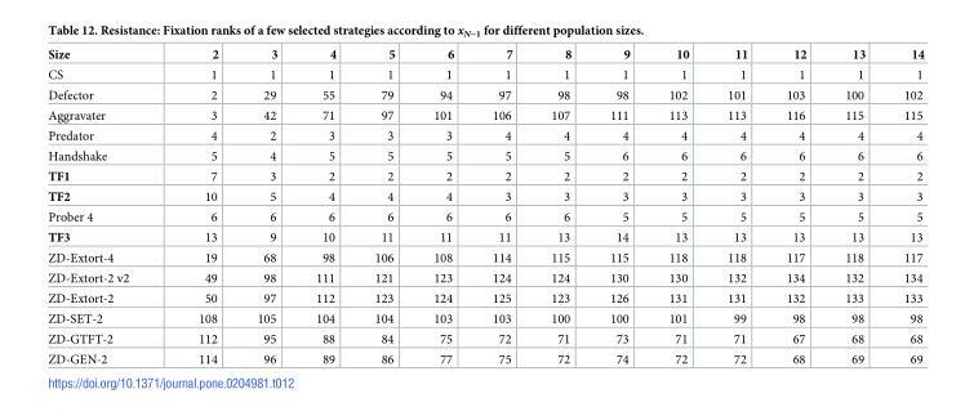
<table><thead><tr><td>Size</td><td>2</td><td>3</td><td>4</td><td>5</td><td>6</td><td>7</td><td>8</td><td>9</td><td>10</td><td>11</td><td>12</td><td>13</td><td>14</td></tr></thead><tbody><tr><td>CS</td><td>1</td><td>1</td><td>1</td><td>1</td><td>1</td><td>1</td><td>1</td><td>1</td><td>1</td><td>1</td><td>1</td><td>1</td><td>1</td></tr><tr><td>Defector</td><td>2</td><td>29</td><td>55</td><td>79</td><td>94</td><td>97</td><td>98</td><td>98</td><td>102</td><td>101</td><td>103</td><td>100</td><td>102</td></tr><tr><td>Aggravater</td><td>3</td><td>42</td><td>71</td><td>97</td><td>101</td><td>106</td><td>107</td><td>111</td><td>113</td><td>113</td><td>116</td><td>115</td><td>115</td></tr><tr><td>Predator</td><td>4</td><td>2</td><td>3</td><td>3</td><td>3</td><td>4</td><td>4</td><td>4</td><td>4</td><td>4</td><td>4</td><td>4</td><td>4</td></tr><tr><td>Handshake</td><td>5</td><td>4</td><td>5</td><td>5</td><td>5</td><td>5</td><td>5</td><td>6</td><td>6</td><td>6</td><td>6</td><td>6</td><td>6</td></tr><tr><td>TF1</td><td>7</td><td>3</td><td>2</td><td>2</td><td>2</td><td>2</td><td>2</td><td>2</td><td>2</td><td>2</td><td>2</td><td>2</td><td>2</td></tr><tr><td>TF2</td><td>10</td><td>5</td><td>4</td><td>4</td><td>4</td><td>3</td><td>3</td><td>3</td><td>3</td><td>3</td><td>3</td><td>3</td><td>3</td></tr><tr><td>Prober 4</td><td>6</td><td>6</td><td>6</td><td>6</td><td>6</td><td>6</td><td>6</td><td>5</td><td>5</td><td>5</td><td>5</td><td>5</td><td>5</td></tr><tr><td>TF3</td><td>13</td><td>9</td><td>10</td><td>11</td><td>11</td><td>11</td><td>13</td><td>14</td><td>13</td><td>13</td><td>13</td><td>13</td><td>13</td></tr><tr><td>ZD-Extort-4</td><td>19</td><td>68</td><td>98</td><td>106</td><td>108</td><td>114</td><td>115</td><td>115</td><td>118</td><td>118</td><td>117</td><td>118</td><td>117</td></tr><tr><td>ZD-Extort-2 v2</td><td>49</td><td>98</td><td>111</td><td>121</td><td>123</td><td>124</td><td>124</td><td>130</td><td>130</td><td>132</td><td>134</td><td>132</td><td>134</td></tr><tr><td>ZD-Extort-2</td><td>50</td><td>97</td><td>112</td><td>123</td><td>124</td><td>125</td><td>123</td><td>126</td><td>131</td><td>131</td><td>132</td><td>133</td><td>133</td></tr><tr><td>ZD-SET-2</td><td>108</td><td>105</td><td>104</td><td>104</td><td>103</td><td>103</td><td>100</td><td>100</td><td>101</td><td>99</td><td>98</td><td>98</td><td>98</td></tr><tr><td>ZD-GTFT-2</td><td>112</td><td>95</td><td>88</td><td>84</td><td>75</td><td>72</td><td>71</td><td>73</td><td>71</td><td>71</td><td>67</td><td>68</td><td>68</td></tr><tr><td>ZD-GEN-2</td><td>114</td><td>96</td><td>89</td><td>86</td><td>77</td><td>75</td><td>72</td><td>74</td><td>72</td><td>72</td><td>68</td><td>69</td><td>69</td></tr></tbody></table>